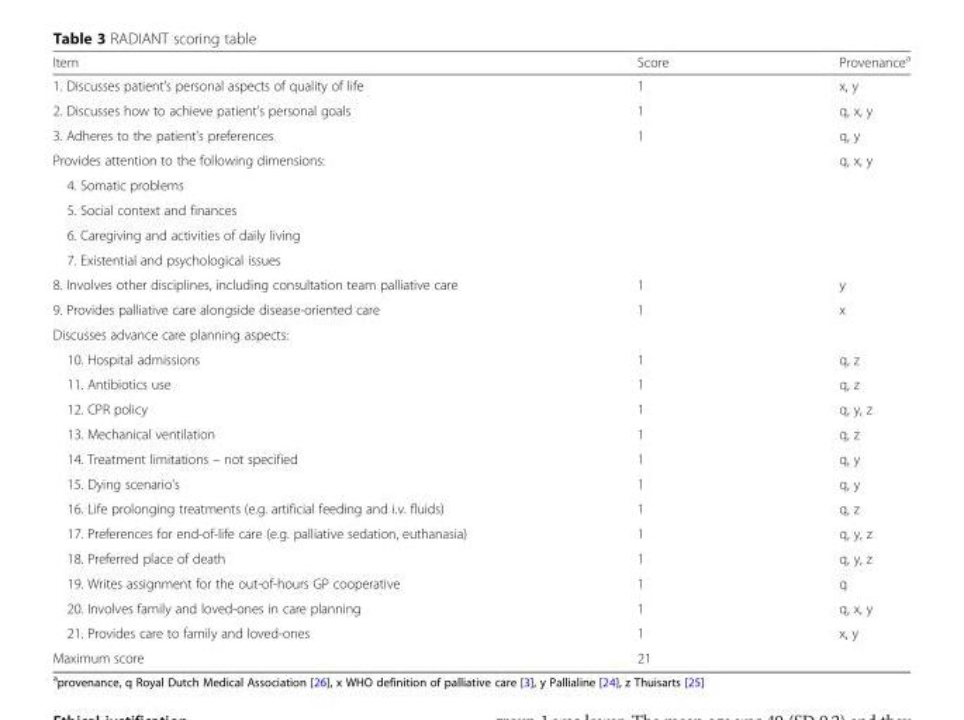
<table><thead><tr><td>Item</td><td>Score</td><td>Provenance<sup>a</sup></td></tr></thead><tbody><tr><td>1. Discusses patient’s personal aspects of quality of life</td><td>1</td><td>x, y</td></tr><tr><td>2. Discusses how to achieve patient’s personal goals</td><td>1</td><td>q, x, y</td></tr><tr><td>3. Adheres to the patient’s preferences</td><td>1</td><td>q, y</td></tr><tr><td>Provides attention to the following dimensions:</td><td></td><td>q, x, y</td></tr><tr><td colspan="3">4. Somatic problems</td></tr><tr><td colspan="3">5. Social context and finances</td></tr><tr><td colspan="3">6. Caregiving and activities of daily living</td></tr><tr><td colspan="3">7. Existential and psychological issues</td></tr><tr><td>8. Involves other disciplines, including consultation team palliative care</td><td>1</td><td>y</td></tr><tr><td>9. Provides palliative care alongside disease-oriented care</td><td>1</td><td>x</td></tr><tr><td colspan="3">Discusses advance care planning aspects:</td></tr><tr><td>10. Hospital admissions</td><td>1</td><td>q, z</td></tr><tr><td>11. Antibiotics use</td><td>1</td><td>q, z</td></tr><tr><td>12. CPR policy</td><td>1</td><td>q, y, z</td></tr><tr><td>13. Mechanical ventilation</td><td>1</td><td>q, z</td></tr><tr><td>14. Treatment limitations – not specified</td><td>1</td><td>q, y</td></tr><tr><td>15. Dying scenario’s</td><td>1</td><td>q, y</td></tr><tr><td>16. Life prolonging treatments (e.g. artificial feeding and i.v. fluids)</td><td>1</td><td>q, z</td></tr><tr><td>17. Preferences for end-of-life care (e.g. palliative sedation, euthanasia)</td><td>1</td><td>q, y, z</td></tr><tr><td>18. Preferred place of death</td><td>1</td><td>q, y, z</td></tr><tr><td>19. Writes assignment for the out-of-hours GP cooperative</td><td>1</td><td>q</td></tr><tr><td>20. Involves family and loved-ones in care planning</td><td>1</td><td>q, x, y</td></tr><tr><td>21. Provides care to family and loved-ones</td><td>1</td><td>x, y</td></tr><tr><td>Maximum score</td><td>21</td><td></td></tr></tbody></table>